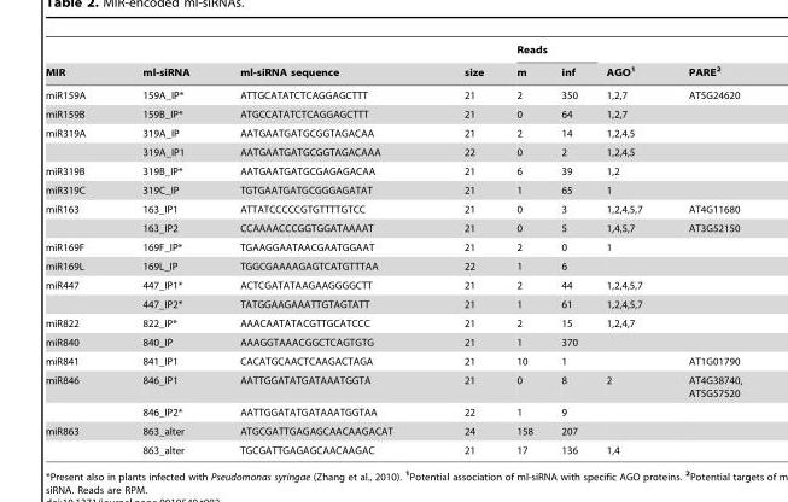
<table><thead><tr><td rowspan="2">MIR</td><td rowspan="2">ml-siRNA</td><td rowspan="2">ml-siRNA sequence</td><td rowspan="2">size</td><td colspan="2">Reads</td><td rowspan="2">AGO<sup>1</sup></td><td rowspan="2">PARE<sup>2</sup></td></tr><tr><td>m</td><td>inf</td></tr></thead><tbody><tr><td>miR159A</td><td>159A_IP*</td><td>ATTGCATATCTCAGGAGCTTT</td><td>21</td><td>2</td><td>350</td><td>1,2,7</td><td>AT5G24620</td></tr><tr><td>miR159B</td><td>159B_IP*</td><td>ATGCCATATCTCAGGAGCTTT</td><td>21</td><td>0</td><td>64</td><td>1,2,7</td><td></td></tr><tr><td rowspan="2">miR319A</td><td>319A_IP</td><td>AATGAATGATGCGGTAGACAA</td><td>21</td><td>2</td><td>14</td><td>1,2,4,5</td><td></td></tr><tr><td>319A_IP1</td><td>AATGAATGATGCGGTAGACAAA</td><td>22</td><td>0</td><td>2</td><td>1,2,4,5</td><td></td></tr><tr><td>miR319B</td><td>319B_IP*</td><td>AATGAATGATGCGAGAGACAA</td><td>21</td><td>6</td><td>39</td><td>1,2</td><td></td></tr><tr><td>miR319C</td><td>319C_IP</td><td>TGTGAATGATGCGGGAGATAT</td><td>21</td><td>1</td><td>65</td><td>1</td><td></td></tr><tr><td rowspan="2">miR163</td><td>163_IP1</td><td>ATTATCCCCCGTGTTTTGTCC</td><td>21</td><td>0</td><td>3</td><td>1,2,4,5,7</td><td>AT4G11680</td></tr><tr><td>163_IP2</td><td>CCAAAACCCGGTGGATAAAAT</td><td>21</td><td>0</td><td>5</td><td>1,4,5,7</td><td>AT3G52150</td></tr><tr><td>miR169F</td><td>169F_IP*</td><td>TGAAGGAATAACGAATGGAAT</td><td>21</td><td>2</td><td>0</td><td>1</td><td></td></tr><tr><td>miR169L</td><td>169L_IP</td><td>TGGCGAAAAGAGTCATGTTTAA</td><td>22</td><td>1</td><td>6</td><td></td><td></td></tr><tr><td rowspan="2">miR447</td><td>447_IP1*</td><td>ACTCGATATAAGAAGGGGCTT</td><td>21</td><td>2</td><td>44</td><td>1,2,4,5,7</td><td></td></tr><tr><td>447_IP2*</td><td>TATGGAAGAAATTGTAGTATT</td><td>21</td><td>1</td><td>61</td><td>1,2,4,5,7</td><td></td></tr><tr><td>miR822</td><td>822_IP*</td><td>AAACAATATACGTTGCATCCC</td><td>21</td><td>2</td><td>15</td><td>1,2,4,7</td><td></td></tr><tr><td>miR840</td><td>840_IP</td><td>AAAGGTAAACGGCTCAGTGTG</td><td>21</td><td>1</td><td>370</td><td></td><td></td></tr><tr><td>miR841</td><td>841_IP1</td><td>CACATGCAACTCAAGACTAGA</td><td>21</td><td>10</td><td>1</td><td></td><td>AT1G01790</td></tr><tr><td rowspan="2">miR846</td><td>846_IP1</td><td>AATTGGATATGATAAATGGTA</td><td>21</td><td>0</td><td>8</td><td>2</td><td>AT4G38740, AT5G57520</td></tr><tr><td>846_IP2*</td><td>AATTGGATATGATAAATGGTAA</td><td>22</td><td>1</td><td>9</td><td></td><td></td></tr><tr><td rowspan="2">miR863</td><td>863_alter</td><td>ATGCGATTGAGAGCAACAAGACAT</td><td>24</td><td>158</td><td>207</td><td></td><td></td></tr><tr><td>863_alter</td><td>TGCGATTGAGAGCAACAAGAC</td><td>21</td><td>17</td><td>136</td><td>1,4</td><td></td></tr></tbody></table>